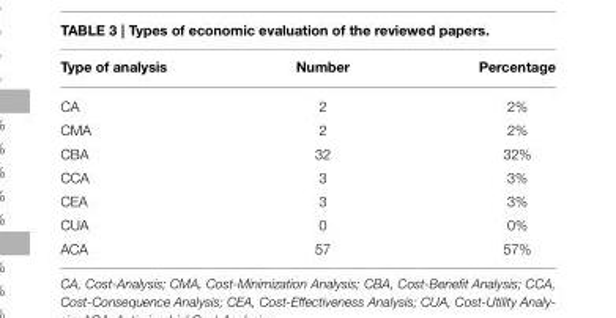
<table><thead><tr><td>Type of analysis</td><td>Number</td><td>Percentage</td></tr></thead><tbody><tr><td>CA</td><td>2</td><td>2%</td></tr><tr><td>CMA</td><td>2</td><td>2%</td></tr><tr><td>CBA</td><td>32</td><td>32%</td></tr><tr><td>CCA</td><td>3</td><td>3%</td></tr><tr><td>CEA</td><td>3</td><td>3%</td></tr><tr><td>CUA</td><td>0</td><td>0%</td></tr><tr><td>ACA</td><td>57</td><td>57%</td></tr></tbody></table>